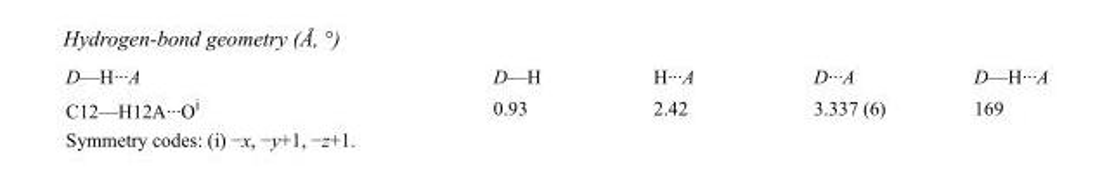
<table><tbody><tr><td>D—H···A</td><td>D—H</td><td>H···A</td><td>D···A</td><td>D—H···A</td></tr><tr><td>C12—H12A···O<sup>i</sup></td><td>0.93</td><td>2.42</td><td>3.337 (6)</td><td>169</td></tr></tbody></table>